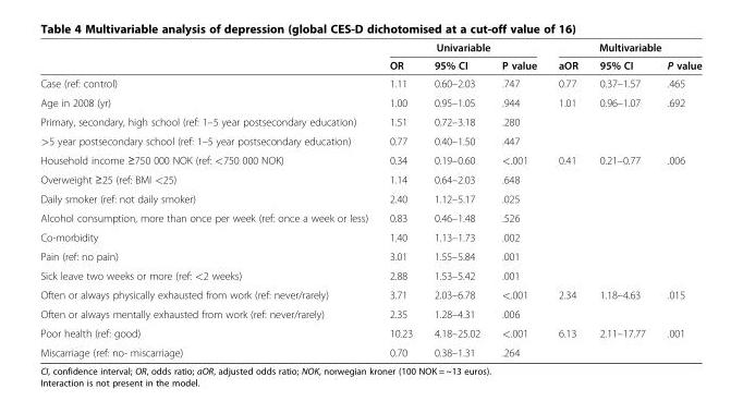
<table><thead><tr><td rowspan="2"></td><td colspan="3">Univariable</td><td colspan="3">Multivariable</td></tr><tr><td>OR</td><td>95% CI</td><td>P value</td><td>aOR</td><td>95% CI</td><td>P value</td></tr></thead><tbody><tr><td>Case (ref: control)</td><td>1.11</td><td>0.60–2.03</td><td>.747</td><td>0.77</td><td>0.37–1.57</td><td>.465</td></tr><tr><td>Age in 2008 (yr)</td><td>1.00</td><td>0.95–1.05</td><td>.944</td><td>1.01</td><td>0.96–1.07</td><td>.692</td></tr><tr><td>Primary, secondary, high school (ref: 1–5 year postsecondary education)</td><td>1.51</td><td>0.72–3.18</td><td>.280</td><td></td><td></td><td></td></tr><tr><td>&gt;5 year postsecondary school (ref: 1–5 year postsecondary education)</td><td>0.77</td><td>0.40–1.50</td><td>.447</td><td></td><td></td><td></td></tr><tr><td>Household income ≥750 000 NOK (ref: &lt;750 000 NOK)</td><td>0.34</td><td>0.19–0.60</td><td>&lt;.001</td><td>0.41</td><td>0.21–0.77</td><td>.006</td></tr><tr><td>Overweight ≥25 (ref: BMI &lt;25)</td><td>1.14</td><td>0.64–2.03</td><td>.648</td><td></td><td></td><td></td></tr><tr><td>Daily smoker (ref: not daily smoker)</td><td>2.40</td><td>1.12–5.17</td><td>.025</td><td></td><td></td><td></td></tr><tr><td>Alcohol consumption, more than once per week (ref: once a week or less)</td><td>0.83</td><td>0.46–1.48</td><td>.526</td><td></td><td></td><td></td></tr><tr><td>Co-morbidity</td><td>1.40</td><td>1.13–1.73</td><td>.002</td><td></td><td></td><td></td></tr><tr><td>Pain (ref: no pain)</td><td>3.01</td><td>1.55–5.84</td><td>.001</td><td></td><td></td><td></td></tr><tr><td>Sick leave two weeks or more (ref: &lt;2 weeks)</td><td>2.88</td><td>1.53–5.42</td><td>.001</td><td></td><td></td><td></td></tr><tr><td>Often or always physically exhausted from work (ref: never/rarely)</td><td>3.71</td><td>2.03–6.78</td><td>&lt;.001</td><td>2.34</td><td>1.18–4.63</td><td>.015</td></tr><tr><td>Often or always mentally exhausted from work (ref: never/rarely)</td><td>2.35</td><td>1.28–4.31</td><td>.006</td><td></td><td></td><td></td></tr><tr><td>Poor health (ref: good)</td><td>10.23</td><td>4.18–25.02</td><td>&lt;.001</td><td>6.13</td><td>2.11–17.77</td><td>.001</td></tr><tr><td>Miscarriage (ref: no- miscarriage)</td><td>0.70</td><td>0.38–1.31</td><td>.264</td><td></td><td></td><td></td></tr></tbody></table>